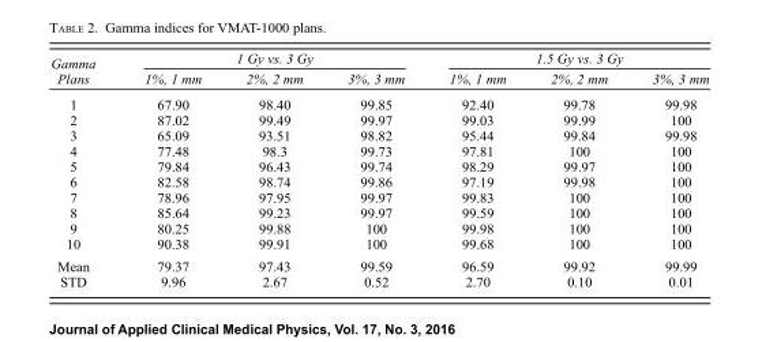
<table><thead><tr><td rowspan="2">Gamma Plans</td><td colspan="3">1 Gy vs. 3 Gy</td><td colspan="3">1.5 Gy vs. 3 Gy</td></tr><tr><td>1%, 1 mm</td><td>2%, 2 mm</td><td>3%, 3 mm</td><td>1%, 1 mm</td><td>2%, 2 mm</td><td>3%, 3 mm</td></tr></thead><tbody><tr><td>1</td><td>67.90</td><td>98.40</td><td>99.85</td><td>92.40</td><td>99.78</td><td>99.98</td></tr><tr><td>2</td><td>87.02</td><td>99.49</td><td>99.97</td><td>99.03</td><td>99.99</td><td>100</td></tr><tr><td>3</td><td>65.09</td><td>93.51</td><td>98.82</td><td>95.44</td><td>99.84</td><td>99.98</td></tr><tr><td>4</td><td>77.48</td><td>98.3</td><td>99.73</td><td>97.81</td><td>100</td><td>100</td></tr><tr><td>5</td><td>79.84</td><td>96.43</td><td>99.74</td><td>98.29</td><td>99.97</td><td>100</td></tr><tr><td>6</td><td>82.58</td><td>98.74</td><td>99.86</td><td>97.19</td><td>99.98</td><td>100</td></tr><tr><td>7</td><td>78.96</td><td>97.95</td><td>99.97</td><td>99.83</td><td>100</td><td>100</td></tr><tr><td>8</td><td>85.64</td><td>99.23</td><td>99.97</td><td>99.59</td><td>100</td><td>100</td></tr><tr><td>9</td><td>80.25</td><td>99.88</td><td>100</td><td>99.98</td><td>100</td><td>100</td></tr><tr><td>10</td><td>90.38</td><td>99.91</td><td>100</td><td>99.68</td><td>100</td><td>100</td></tr><tr><td>Mean</td><td>79.37</td><td>97.43</td><td>99.59</td><td>96.59</td><td>99.92</td><td>99.99</td></tr><tr><td>STD</td><td>9.96</td><td>2.67</td><td>0.52</td><td>2.70</td><td>0.10</td><td>0.01</td></tr></tbody></table>